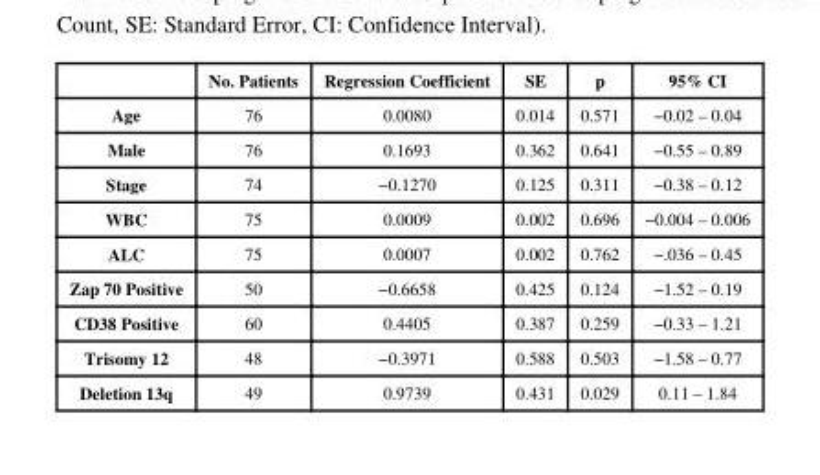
<table><thead><tr><td></td><td>No. Patients</td><td>Regression Coefficient</td><td>SE</td><td>p</td><td>95% CI</td></tr></thead><tbody><tr><td>Age</td><td>76</td><td>0.0080</td><td>0.014</td><td>0.571</td><td>−0.02 – 0.04</td></tr><tr><td>Male</td><td>76</td><td>0.1693</td><td>0.362</td><td>0.641</td><td>−0.55 – 0.89</td></tr><tr><td>Stage</td><td>74</td><td>−0.1270</td><td>0.125</td><td>0.311</td><td>−0.38 – 0.12</td></tr><tr><td>WBC</td><td>75</td><td>0.0009</td><td>0.002</td><td>0.696</td><td>−0.004 – 0.006</td></tr><tr><td>ALC</td><td>75</td><td>0.0007</td><td>0.002</td><td>0.762</td><td>−.036 – 0.45</td></tr><tr><td>Zap 70 Positive</td><td>50</td><td>−0.6658</td><td>0.425</td><td>0.124</td><td>−1.52 – 0.19</td></tr><tr><td>CD38 Positive</td><td>60</td><td>0.4405</td><td>0.387</td><td>0.259</td><td>−0.33 – 1.21</td></tr><tr><td>Trisomy 12</td><td>48</td><td>−0.3971</td><td>0.588</td><td>0.503</td><td>−1.58 – 0.77</td></tr><tr><td>Deletion 13q</td><td>49</td><td>0.9739</td><td>0.431</td><td>0.029</td><td>0.11 – 1.84</td></tr></tbody></table>